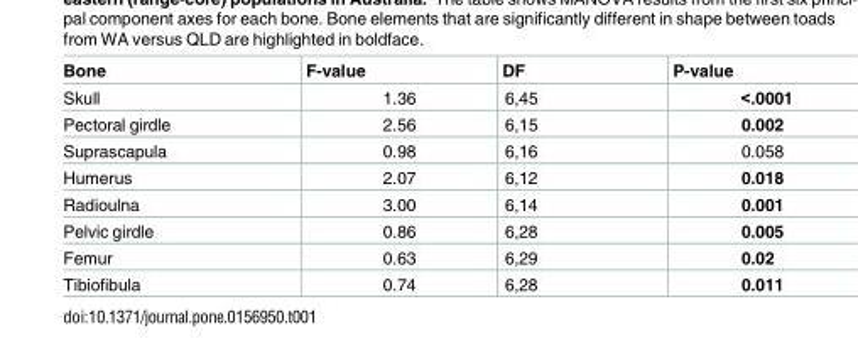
<table><thead><tr><td>Bone</td><td>F-value</td><td>DF</td><td>P-value</td></tr></thead><tbody><tr><td>Skull</td><td>1.36</td><td>6,45</td><td>&lt;.0001</td></tr><tr><td>Pectoral girdle</td><td>2.56</td><td>6,15</td><td>0.002</td></tr><tr><td>Suprascapula</td><td>0.98</td><td>6,16</td><td>0.058</td></tr><tr><td>Humerus</td><td>2.07</td><td>6,12</td><td>0.018</td></tr><tr><td>Radioulna</td><td>3.00</td><td>6,14</td><td>0.001</td></tr><tr><td>Pelvic girdle</td><td>0.86</td><td>6,28</td><td>0.005</td></tr><tr><td>Femur</td><td>0.63</td><td>6,29</td><td>0.02</td></tr><tr><td>Tibiofibula</td><td>0.74</td><td>6,28</td><td>0.011</td></tr></tbody></table>